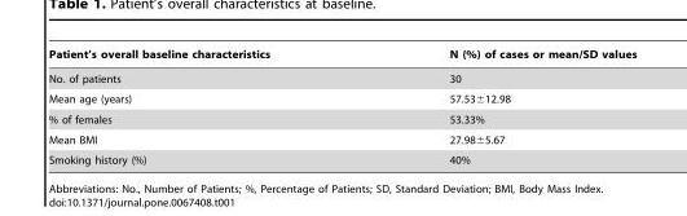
<table><thead><tr><td>Patient’s overall baseline characteristics</td><td>N (%) of cases or mean/SD values</td></tr></thead><tbody><tr><td>No. of patients</td><td>30</td></tr><tr><td>Mean age (years)</td><td>57.53±12.98</td></tr><tr><td>% of females</td><td>53.33%</td></tr><tr><td>Mean BMI</td><td>27.98±5.67</td></tr><tr><td>Smoking history (%)</td><td>40%</td></tr></tbody></table>